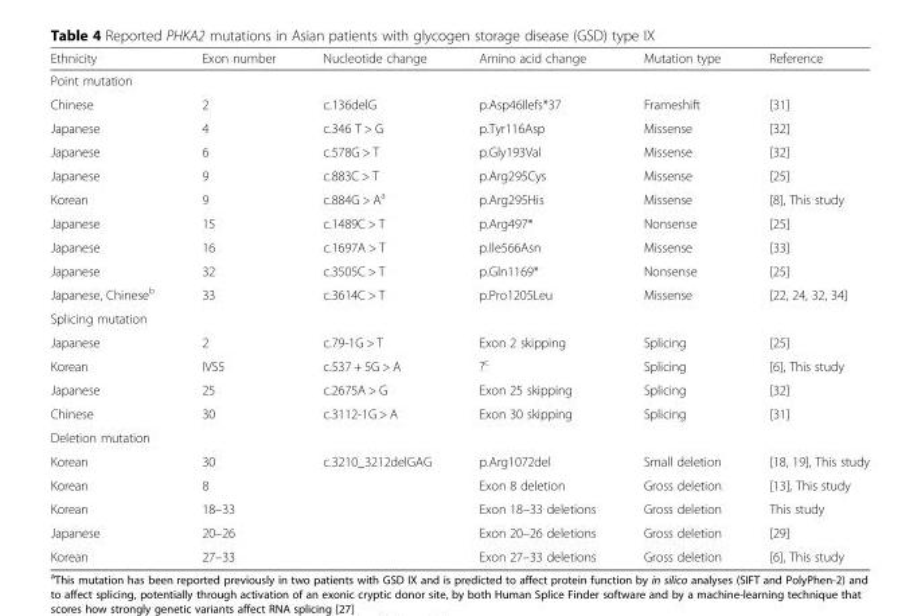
<table><thead><tr><td>Ethnicity</td><td>Exon number</td><td>Nucleotide change</td><td>Amino acid change</td><td>Mutation type</td><td>Reference</td></tr></thead><tbody><tr><td colspan="6">Point mutation</td></tr><tr><td>Chinese</td><td>2</td><td>c.136delG</td><td>p.Asp46Ilefs*37</td><td>Frameshift</td><td>[31]</td></tr><tr><td>Japanese</td><td>4</td><td>c.346 T &gt; G</td><td>p.Tyr116Asp</td><td>Missense</td><td>[32]</td></tr><tr><td>Japanese</td><td>6</td><td>c.578G &gt; T</td><td>p.Gly193Val</td><td>Missense</td><td>[32]</td></tr><tr><td>Japanese</td><td>9</td><td>c.883C &gt; T</td><td>p.Arg295Cys</td><td>Missense</td><td>[25]</td></tr><tr><td>Korean</td><td>9</td><td>c.884G &gt; A<sup>a</sup></td><td>p.Arg295His</td><td>Missense</td><td>[8], This study</td></tr><tr><td>Japanese</td><td>15</td><td>c.1489C &gt; T</td><td>p.Arg497*</td><td>Nonsense</td><td>[25]</td></tr><tr><td>Japanese</td><td>16</td><td>c.1697A &gt; T</td><td>p.Ile566Asn</td><td>Missense</td><td>[33]</td></tr><tr><td>Japanese</td><td>32</td><td>c.3505C &gt; T</td><td>p.Gln1169*</td><td>Nonsense</td><td>[25]</td></tr><tr><td>Japanese, Chinese<sup>b</sup></td><td>33</td><td>c.3614C &gt; T</td><td>p.Pro1205Leu</td><td>Missense</td><td>[22, 24, 32, 34]</td></tr><tr><td colspan="6">Splicing mutation</td></tr><tr><td>Japanese</td><td>2</td><td>c.79-1G &gt; T</td><td>Exon 2 skipping</td><td>Splicing</td><td>[25]</td></tr><tr><td>Korean</td><td>IVS5</td><td>c.537 + 5G &gt; A</td><td>?<sup>c</sup></td><td>Splicing</td><td>[6], This study</td></tr><tr><td>Japanese</td><td>25</td><td>c.2675A &gt; G</td><td>Exon 25 skipping</td><td>Splicing</td><td>[32]</td></tr><tr><td>Chinese</td><td>30</td><td>c.3112-1G &gt; A</td><td>Exon 30 skipping</td><td>Splicing</td><td>[31]</td></tr><tr><td colspan="6">Deletion mutation</td></tr><tr><td>Korean</td><td>30</td><td>c.3210_3212delGAG</td><td>p.Arg1072del</td><td>Small deletion</td><td>[18, 19], This study</td></tr><tr><td>Korean</td><td>8</td><td></td><td>Exon 8 deletion</td><td>Gross deletion</td><td>[13], This study</td></tr><tr><td>Korean</td><td>18–33</td><td></td><td>Exon 18–33 deletions</td><td>Gross deletion</td><td>This study</td></tr><tr><td>Japanese</td><td>20–26</td><td></td><td>Exon 20–26 deletions</td><td>Gross deletion</td><td>[29]</td></tr><tr><td>Korean</td><td>27–33</td><td></td><td>Exon 27–33 deletions</td><td>Gross deletion</td><td>[6], This study</td></tr></tbody></table>